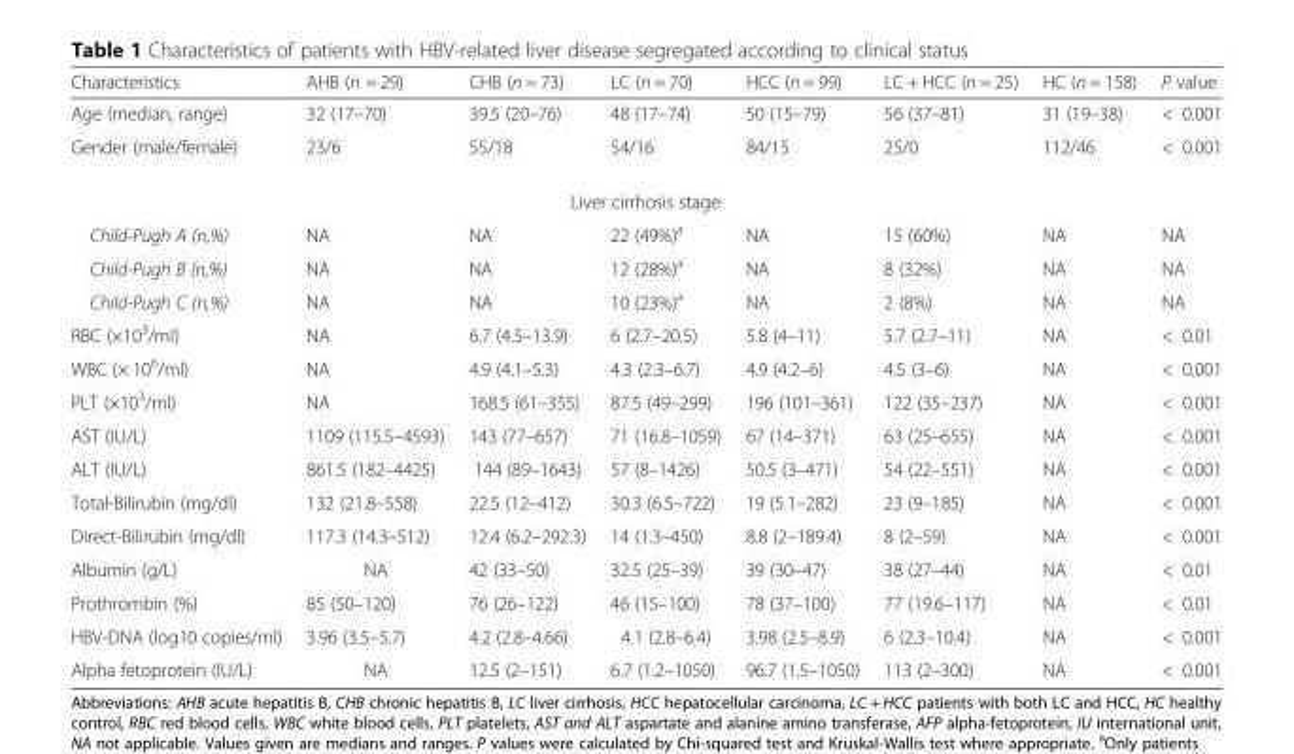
<table><thead><tr><td>Characteristics</td><td>AHB (n = 29)</td><td>CHB (n = 73)</td><td>LC (n = 70)</td><td>HCC (n = 99)</td><td>LC + HCC (n = 25)</td><td>HC (n = 158)</td><td>P value</td></tr></thead><tbody><tr><td>Age (median, range)</td><td>32 (17–70)</td><td>39.5 (20–76)</td><td>48 (17–74)</td><td>50 (15–79)</td><td>56 (37–81)</td><td>31 (19–38)</td><td>&lt; 0.001</td></tr><tr><td>Gender (male/female)</td><td>23/6</td><td>55/18</td><td>54/16</td><td>84/15</td><td>25/0</td><td>112/46</td><td>&lt; 0.001</td></tr><tr><td colspan="8">Liver cirrhosis stage:</td></tr><tr><td>Child-Pugh A (n,%)</td><td>NA</td><td>NA</td><td>22 (49%)<sup>a</sup></td><td>NA</td><td>15 (60%)</td><td>NA</td><td>NA</td></tr><tr><td>Child-Pugh B (n,%)</td><td>NA</td><td>NA</td><td>12 (28%)<sup>a</sup></td><td>NA</td><td>8 (32%)</td><td>NA</td><td>NA</td></tr><tr><td>Child-Pugh C (n,%)</td><td>NA</td><td>NA</td><td>10 (23%)<sup>a</sup></td><td>NA</td><td>2 (8%)</td><td>NA</td><td>NA</td></tr><tr><td>RBC (×10<sup>3</sup>/ml)</td><td>NA</td><td>6.7 (4.5–13.9)</td><td>6 (2.7–20.5)</td><td>5.8 (4–11)</td><td>5.7 (2.7–11)</td><td>NA</td><td>&lt; 0.01</td></tr><tr><td>WBC (× 10<sup>6</sup>/ml)</td><td>NA</td><td>4.9 (4.1–5.3)</td><td>4.3 (2.3–6.7)</td><td>4.9 (4.2–6)</td><td>4.5 (3–6)</td><td>NA</td><td>&lt; 0.001</td></tr><tr><td>PLT (×10<sup>3</sup>/ml)</td><td>NA</td><td>168.5 (61–355)</td><td>87.5 (49–299)</td><td>196 (101–361)</td><td>122 (35–237)</td><td>NA</td><td>&lt; 0.001</td></tr><tr><td>AST (IU/L)</td><td>1109 (115.5–4593)</td><td>143 (77–657)</td><td>71 (16.8–1059)</td><td>67 (14–371)</td><td>63 (25–655)</td><td>NA</td><td>&lt; 0.001</td></tr><tr><td>ALT (IU/L)</td><td>861.5 (182–4425)</td><td>144 (89–1643)</td><td>57 (8–1426)</td><td>50.5 (3–471)</td><td>54 (22–551)</td><td>NA</td><td>&lt; 0.001</td></tr><tr><td>Total-Bilirubin (mg/dl)</td><td>132 (21.8–558)</td><td>22.5 (12–412)</td><td>30.3 (6.5–722)</td><td>19 (5.1–282)</td><td>23 (9–185)</td><td>NA</td><td>&lt; 0.001</td></tr><tr><td>Direct-Bilirubin (mg/dl)</td><td>117.3 (14.3–512)</td><td>12.4 (6.2–292.3)</td><td>14 (1.3–450)</td><td>8.8 (2–189.4)</td><td>8 (2–59)</td><td>NA</td><td>&lt; 0.001</td></tr><tr><td>Albumin (g/L)</td><td>NA</td><td>42 (33–50)</td><td>32.5 (25–39)</td><td>39 (30–47)</td><td>38 (27–44)</td><td>NA</td><td>&lt; 0.01</td></tr><tr><td>Prothrombin (%)</td><td>85 (50–120)</td><td>76 (26–122)</td><td>46 (15–100)</td><td>78 (37–100)</td><td>77 (19.6–117)</td><td>NA</td><td>&lt; 0.01</td></tr><tr><td>HBV-DNA (log10 copies/ml)</td><td>3.96 (3.5–5.7)</td><td>4.2 (2.8–4.66)</td><td>4.1 (2.8–6.4)</td><td>3.98 (2.5–8.9)</td><td>6 (2.3–10.4)</td><td>NA</td><td>&lt; 0.001</td></tr><tr><td>Alpha fetoprotein (IU/L)</td><td>NA</td><td>12.5 (2–151)</td><td>6.7 (1.2–1050)</td><td>96.7 (1.5–1050)</td><td>113 (2–300)</td><td>NA</td><td>&lt; 0.001</td></tr></tbody></table>